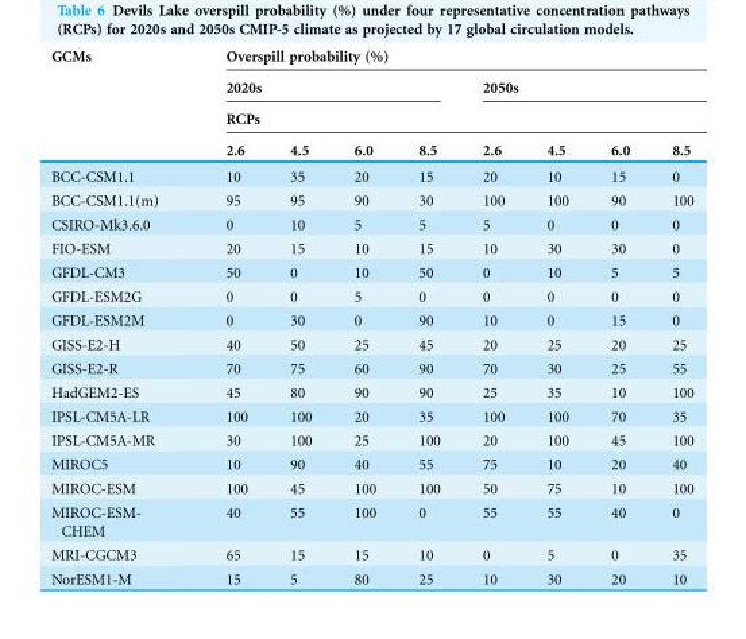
<table><thead><tr><td rowspan="4">GCMs</td><td colspan="8">Overspill probability (%)</td></tr><tr><td colspan="4">2020s</td><td colspan="4">2050s</td></tr><tr><td colspan="8">RCPs</td></tr><tr><td>2.6</td><td>4.5</td><td>6.0</td><td>8.5</td><td>2.6</td><td>4.5</td><td>6.0</td><td>8.5</td></tr></thead><tbody><tr><td>BCC-CSM1.1</td><td>10</td><td>35</td><td>20</td><td>15</td><td>20</td><td>10</td><td>15</td><td>0</td></tr><tr><td>BCC-CSM1.1(m)</td><td>95</td><td>95</td><td>90</td><td>30</td><td>100</td><td>100</td><td>90</td><td>100</td></tr><tr><td>CSIRO-Mk3.6.0</td><td>0</td><td>10</td><td>5</td><td>5</td><td>5</td><td>0</td><td>0</td><td>0</td></tr><tr><td>FIO-ESM</td><td>20</td><td>15</td><td>10</td><td>15</td><td>10</td><td>30</td><td>30</td><td>0</td></tr><tr><td>GFDL-CM3</td><td>50</td><td>0</td><td>10</td><td>50</td><td>0</td><td>10</td><td>5</td><td>5</td></tr><tr><td>GFDL-ESM2G</td><td>0</td><td>0</td><td>5</td><td>0</td><td>0</td><td>0</td><td>0</td><td>0</td></tr><tr><td>GFDL-ESM2M</td><td>0</td><td>30</td><td>0</td><td>90</td><td>10</td><td>0</td><td>15</td><td>0</td></tr><tr><td>GISS-E2-H</td><td>40</td><td>50</td><td>25</td><td>45</td><td>20</td><td>25</td><td>20</td><td>25</td></tr><tr><td>GISS-E2-R</td><td>70</td><td>75</td><td>60</td><td>90</td><td>70</td><td>30</td><td>25</td><td>55</td></tr><tr><td>HadGEM2-ES</td><td>45</td><td>80</td><td>90</td><td>90</td><td>25</td><td>35</td><td>10</td><td>100</td></tr><tr><td>IPSL-CM5A-LR</td><td>100</td><td>100</td><td>20</td><td>35</td><td>100</td><td>100</td><td>70</td><td>35</td></tr><tr><td>IPSL-CM5A-MR</td><td>30</td><td>100</td><td>25</td><td>100</td><td>20</td><td>100</td><td>45</td><td>100</td></tr><tr><td>MIROC5</td><td>10</td><td>90</td><td>40</td><td>55</td><td>75</td><td>10</td><td>20</td><td>40</td></tr><tr><td>MIROC-ESM</td><td>100</td><td>45</td><td>100</td><td>100</td><td>50</td><td>75</td><td>10</td><td>100</td></tr><tr><td>MIROC-ESM- CHEM</td><td>40</td><td>55</td><td>100</td><td>0</td><td>55</td><td>55</td><td>40</td><td>0</td></tr><tr><td>MRI-CGCM3</td><td>65</td><td>15</td><td>15</td><td>10</td><td>0</td><td>5</td><td>0</td><td>35</td></tr><tr><td>NorESM1-M</td><td>15</td><td>5</td><td>80</td><td>25</td><td>10</td><td>30</td><td>20</td><td>10</td></tr></tbody></table>